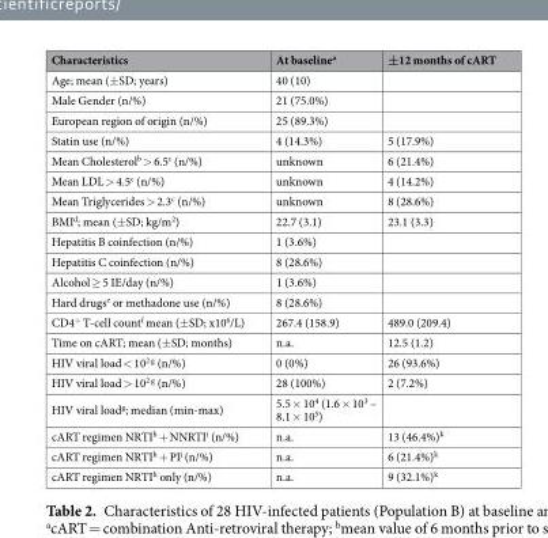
<table><thead><tr><td>Characteristics</td><td>At baseline<sup>a</sup></td><td>±12 months of cART</td></tr></thead><tbody><tr><td>Age; mean (±SD; years)</td><td>40 (10)</td><td></td></tr><tr><td>Male Gender (n/%)</td><td>21 (75.0%)</td><td></td></tr><tr><td>European region of origin (n/%)</td><td>25 (89.3%)</td><td></td></tr><tr><td>Statin use (n/%)</td><td>4 (14.3%)</td><td>5 (17.9%)</td></tr><tr><td>Mean Cholesterol<sup>b</sup> &gt; 6.5<sup>c</sup> (n/%)</td><td>unknown</td><td>6 (21.4%)</td></tr><tr><td>Mean LDL &gt; 4.5<sup>c</sup> (n/%)</td><td>unknown</td><td>4 (14.2%)</td></tr><tr><td>Mean Triglycerides &gt; 2.3<sup>c</sup> (n/%)</td><td>unknown</td><td>8 (28.6%)</td></tr><tr><td>BMI<sup>d</sup>; mean (±SD; kg/m<sup>2</sup>)</td><td>22.7 (3.1)</td><td>23.1 (3.3)</td></tr><tr><td>Hepatitis B coinfection (n/%)</td><td>1 (3.6%)</td><td></td></tr><tr><td>Hepatitis C coinfection (n/%)</td><td>8 (28.6%)</td><td></td></tr><tr><td>Alcohol ≥ 5 IE/day (n/%)</td><td>1 (3.6%)</td><td></td></tr><tr><td>Hard drugs<sup>e</sup> or methadone use (n/%)</td><td>8 (28.6%)</td><td></td></tr><tr><td>CD4<sup>+</sup> T-cell count<sup>f</sup> mean (±SD; x10<sup>6</sup>/L)</td><td>267.4 (158.9)</td><td>489.0 (209.4)</td></tr><tr><td>Time on cART; mean (±SD; months)</td><td>n.a.</td><td>12.5 (1.2)</td></tr><tr><td>HIV viral load &lt; 10<sup>2 g</sup> (n/%)</td><td>0 (0%)</td><td>26 (93.6%)</td></tr><tr><td>HIV viral load &gt; 10<sup>2 g</sup> (n/%)</td><td>28 (100%)</td><td>2 (7.2%)</td></tr><tr><td>HIV viral load<sup>g</sup>; median (min-max)</td><td>5.5 × 10<sup>4</sup> (1.6 × 10<sup>3</sup> – 8.1 × 10<sup>5</sup>)</td><td></td></tr><tr><td>cART regimen NRTI<sup>h</sup> + NNRTI<sup>i</sup> (n/%)</td><td>n.a.</td><td>13 (46.4%)<sup>k</sup></td></tr><tr><td>cART regimen NRTI<sup>h</sup> + PI<sup>j</sup> (n/%)</td><td>n.a.</td><td>6 (21.4%)<sup>k</sup></td></tr><tr><td>cART regimen NRTI<sup>h</sup> only (n/%)</td><td>n.a.</td><td>9 (32.1%)<sup>k</sup></td></tr></tbody></table>